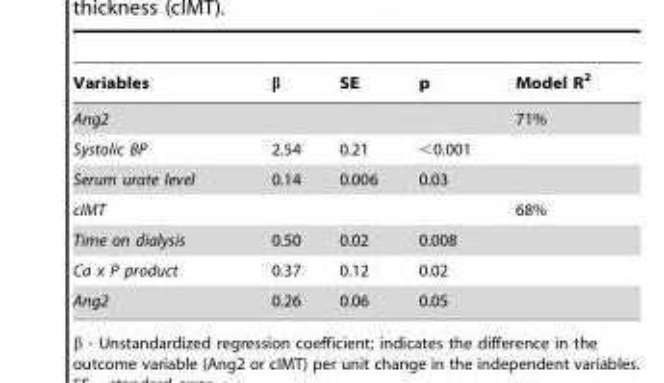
<table><thead><tr><td>Variables</td><td>β</td><td>SE</td><td>p</td><td>Model R<sup>2</sup></td></tr></thead><tbody><tr><td colspan="4">Ang2</td><td>71%</td></tr><tr><td>Systolic BP</td><td>2.54</td><td>0.21</td><td>&lt;0.001</td><td></td></tr><tr><td>Serum urate level</td><td>0.14</td><td>0.006</td><td>0.03</td><td></td></tr><tr><td colspan="4">cIMT</td><td>68%</td></tr><tr><td>Time on dialysis</td><td>0.50</td><td>0.02</td><td>0.008</td><td></td></tr><tr><td>Ca x P product</td><td>0.37</td><td>0.12</td><td>0.02</td><td></td></tr><tr><td>Ang2</td><td>0.26</td><td>0.06</td><td>0.05</td><td></td></tr></tbody></table>